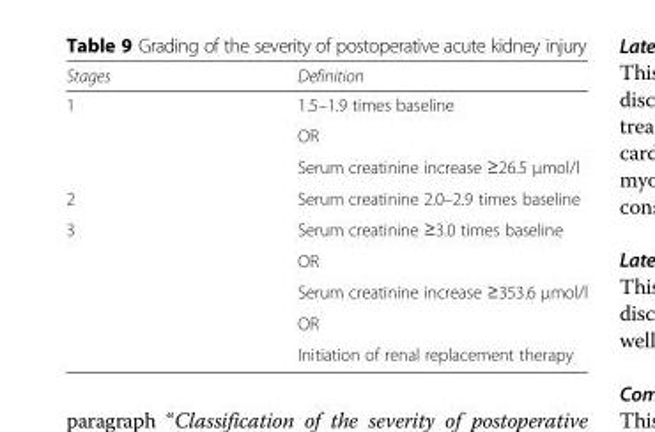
<table><thead><tr><td>Stages</td><td>Definition</td></tr></thead><tbody><tr><td rowspan="3">1</td><td>1.5–1.9 times baseline</td></tr><tr><td>OR</td></tr><tr><td>Serum creatinine increase ≥26.5 μmol/l</td></tr><tr><td>2</td><td>Serum creatinine 2.0–2.9 times baseline</td></tr><tr><td rowspan="5">3</td><td>Serum creatinine ≥3.0 times baseline</td></tr><tr><td>OR</td></tr><tr><td>Serum creatinine increase ≥353.6 μmol/l</td></tr><tr><td>OR</td></tr><tr><td>Initiation of renal replacement therapy</td></tr></tbody></table>